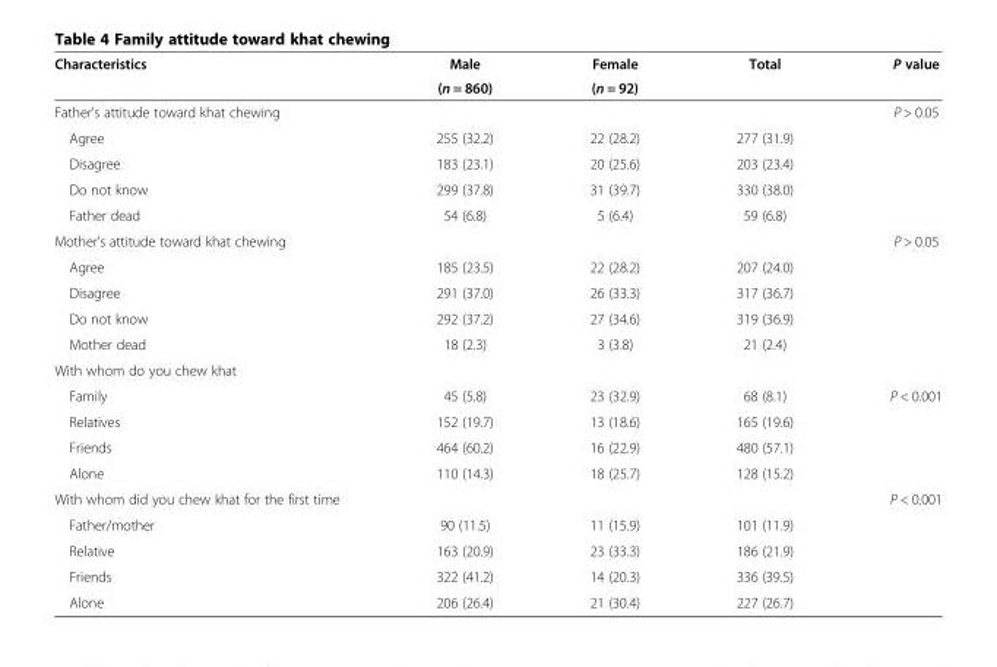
<table><thead><tr><td rowspan="2">Characteristics</td><td rowspan="2">Male (n = 860)</td><td rowspan="2">Female (n = 92)</td><td rowspan="2">Total</td><td rowspan="2">P value</td></tr><tr></tr></thead><tbody><tr><td colspan="4">Father&#x27;s attitude toward khat chewing</td><td rowspan="5">P &gt; 0.05</td></tr><tr><td>Agree</td><td>255 (32.2)</td><td>22 (28.2)</td><td>277 (31.9)</td></tr><tr><td>Disagree</td><td>183 (23.1)</td><td>20 (25.6)</td><td>203 (23.4)</td></tr><tr><td>Do not know</td><td>299 (37.8)</td><td>31 (39.7)</td><td>330 (38.0)</td></tr><tr><td>Father dead</td><td>54 (6.8)</td><td>5 (6.4)</td><td>59 (6.8)</td></tr><tr><td colspan="4">Mother&#x27;s attitude toward khat chewing</td><td rowspan="6">P &gt; 0.05</td></tr><tr><td>Agree</td><td>185 (23.5)</td><td>22 (28.2)</td><td>207 (24.0)</td></tr><tr><td>Disagree</td><td>291 (37.0)</td><td>26 (33.3)</td><td>317 (36.7)</td></tr><tr><td>Do not know</td><td>292 (37.2)</td><td>27 (34.6)</td><td>319 (36.9)</td></tr><tr><td>Mother dead</td><td>18 (2.3)</td><td>3 (3.8)</td><td>21 (2.4)</td></tr><tr><td colspan="4">With whom do you chew khat</td></tr><tr><td>Family</td><td>45 (5.8)</td><td>23 (32.9)</td><td>68 (8.1)</td><td rowspan="4">P &lt; 0.001</td></tr><tr><td>Relatives</td><td>152 (19.7)</td><td>13 (18.6)</td><td>165 (19.6)</td></tr><tr><td>Friends</td><td>464 (60.2)</td><td>16 (22.9)</td><td>480 (57.1)</td></tr><tr><td>Alone</td><td>110 (14.3)</td><td>18 (25.7)</td><td>128 (15.2)</td></tr><tr><td colspan="4">With whom did you chew khat for the first time</td><td rowspan="5">P &lt; 0.001</td></tr><tr><td>Father/mother</td><td>90 (11.5)</td><td>11 (15.9)</td><td>101 (11.9)</td></tr><tr><td>Relative</td><td>163 (20.9)</td><td>23 (33.3)</td><td>186 (21.9)</td></tr><tr><td>Friends</td><td>322 (41.2)</td><td>14 (20.3)</td><td>336 (39.5)</td></tr><tr><td>Alone</td><td>206 (26.4)</td><td>21 (30.4)</td><td>227 (26.7)</td></tr></tbody></table>